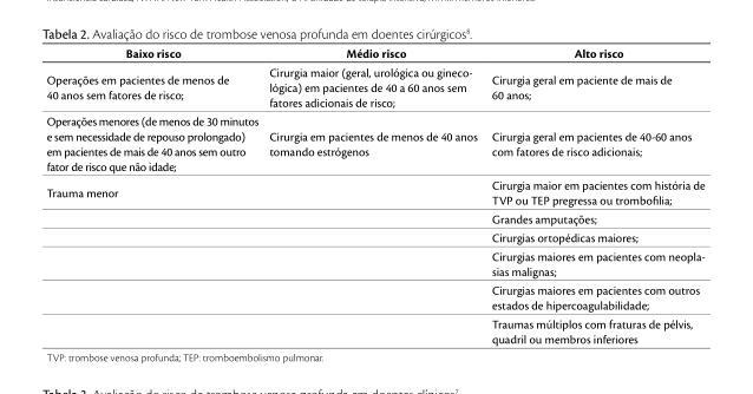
<table><thead><tr><td>Baixo risco</td><td>Médio risco</td><td>Alto risco</td></tr></thead><tbody><tr><td>Operações em pacientes de menos de 40 anos sem fatores de risco;</td><td>Cirurgia maior (geral, urológica ou gineco- lógica) em pacientes de 40 a 60 anos sem fatores adicionais de risco;</td><td>Cirurgia geral em paciente de mais de 60 anos;</td></tr><tr><td>Operações menores (de menos de 30 minutos e sem necessidade de repouso prolongado) em pacientes de mais de 40 anos sem outro fator de risco que não idade;</td><td>Cirurgia em pacientes de menos de 40 anos tomando estrógenos</td><td>Cirurgia geral em pacientes de 40-60 anos com fatores de risco adicionais;</td></tr><tr><td rowspan="6">Trauma menor</td><td></td><td>Cirurgia maior em pacientes com história de TVP ou TEP pregressa ou trombofilia;</td></tr><tr><td></td><td>Grandes amputações;</td></tr><tr><td></td><td>Cirurgias ortopédicas maiores;</td></tr><tr><td></td><td>Cirurgias maiores em pacientes com neopla- sias malignas;</td></tr><tr><td></td><td>Cirurgias maiores em pacientes com outros estados de hipercoagulabilidade;</td></tr><tr><td></td><td>Traumas múltiplos com fraturas de pélvis, quadril ou membros inferiores</td></tr></tbody></table>